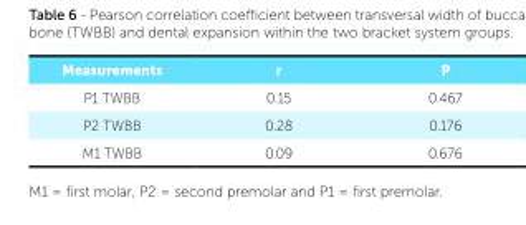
<table><thead><tr><td>Measurements</td><td>r</td><td>P</td></tr></thead><tbody><tr><td>P1 TWBB</td><td>0.15</td><td>0.467</td></tr><tr><td>P2 TWBB</td><td>0.28</td><td>0.176</td></tr><tr><td>M1 TWBB</td><td>0.09</td><td>0.676</td></tr></tbody></table>